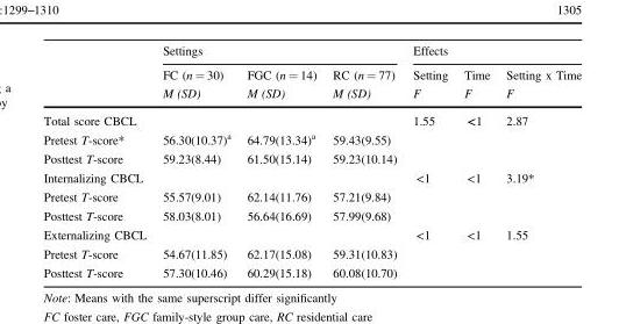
<table><thead><tr><td rowspan="3"></td><td colspan="3">Settings</td><td colspan="3">Effects</td></tr><tr><td rowspan="2">FC (n = 30) M (SD)</td><td rowspan="2">FGC (n = 14) M (SD)</td><td rowspan="2">RC (n = 77) M (SD)</td><td rowspan="2">Setting F</td><td rowspan="2">Time F</td><td rowspan="2">Setting x Time F</td></tr><tr></tr></thead><tbody><tr><td>Total score CBCL</td><td></td><td></td><td></td><td>1.55</td><td>&lt;1</td><td>2.87</td></tr><tr><td>Pretest T-score*</td><td>56.30(10.37)<sup>a</sup></td><td>64.79(13.34)<sup>a</sup></td><td>59.43(9.55)</td><td></td><td></td><td></td></tr><tr><td>Posttest T-score</td><td>59.23(8.44)</td><td>61.50(15.14)</td><td>59.23(10.14)</td><td></td><td></td><td></td></tr><tr><td>Internalizing CBCL</td><td></td><td></td><td></td><td>&lt;1</td><td>&lt;1</td><td>3.19*</td></tr><tr><td>Pretest T-score</td><td>55.57(9.01)</td><td>62.14(11.76)</td><td>57.21(9.84)</td><td></td><td></td><td></td></tr><tr><td>Posttest T-score</td><td>58.03(8.01)</td><td>56.64(16.69)</td><td>57.99(9.68)</td><td></td><td></td><td></td></tr><tr><td>Externalizing CBCL</td><td></td><td></td><td></td><td>&lt;1</td><td>&lt;1</td><td>1.55</td></tr><tr><td>Pretest T-score</td><td>54.67(11.85)</td><td>62.17(15.08)</td><td>59.31(10.83)</td><td></td><td></td><td></td></tr><tr><td>Posttest T-score</td><td>57.30(10.46)</td><td>60.29(15.18)</td><td>60.08(10.70)</td><td></td><td></td><td></td></tr></tbody></table>